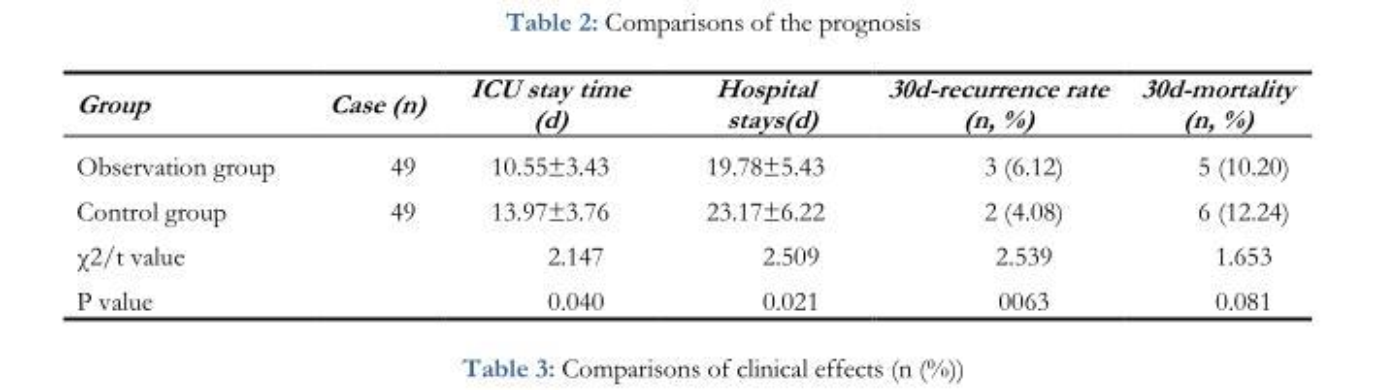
<table><thead><tr><td>Group</td><td>Case (n)</td><td>ICU stay time (d)</td><td>Hospital stays(d)</td><td>30d-recurrence rate (n, %)</td><td>30d-mortality (n, %)</td></tr></thead><tbody><tr><td>Observation group</td><td>49</td><td>10.55±3.43</td><td>19.78±5.43</td><td>3 (6.12)</td><td>5 (10.20)</td></tr><tr><td>Control group</td><td>49</td><td>13.97±3.76</td><td>23.17±6.22</td><td>2 (4.08)</td><td>6 (12.24)</td></tr><tr><td>χ<sup>2</sup>/t value</td><td></td><td>2.147</td><td>2.509</td><td>2.539</td><td>1.653</td></tr><tr><td>P value</td><td></td><td>0.040</td><td>0.021</td><td>0063</td><td>0.081</td></tr></tbody></table>